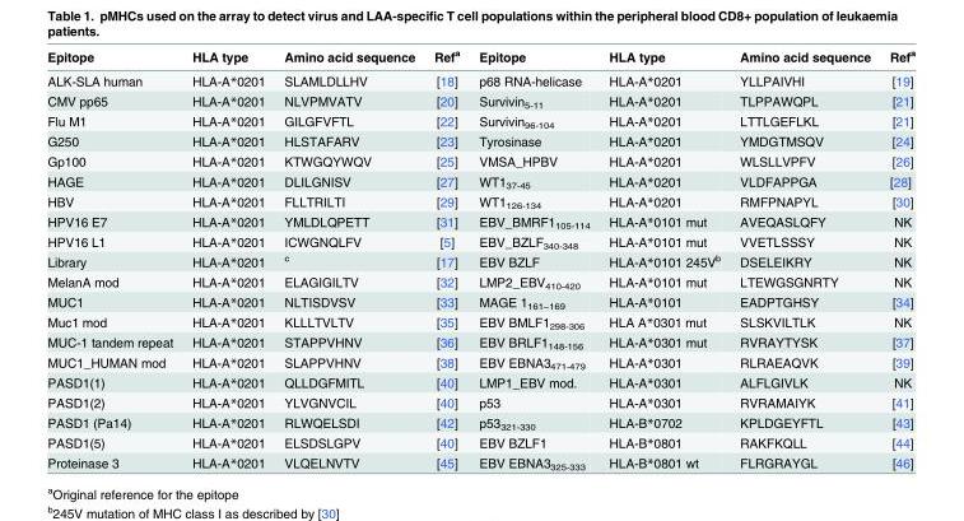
<table><thead><tr><td>Epitope</td><td>HLA type</td><td>Amino acid sequence</td><td>Ref<sup>a</sup></td><td>Epitope</td><td>HLA type</td><td>Amino acid sequence</td><td>Ref<sup>a</sup></td></tr></thead><tbody><tr><td>ALK-SLA human</td><td>HLA-A*0201</td><td>SLAMLDLLHV</td><td>[18]</td><td>p68 RNA-helicase</td><td>HLA-A*0201</td><td>YLLPAIVHI</td><td>[19]</td></tr><tr><td>CMV pp65</td><td>HLA-A*0201</td><td>NLVPMVATV</td><td>[20]</td><td>Survivin<sub>5-11</sub></td><td>HLA-A*0201</td><td>TLPPAWQPL</td><td>[21]</td></tr><tr><td>Flu M1</td><td>HLA-A*0201</td><td>GILGFVFTL</td><td>[22]</td><td>Survivin<sub>96-104</sub></td><td>HLA-A*0201</td><td>LTTLGEFLKL</td><td>[21]</td></tr><tr><td>G250</td><td>HLA-A*0201</td><td>HLSTAFARV</td><td>[23]</td><td>Tyrosinase</td><td>HLA-A*0201</td><td>YMDGTMSQV</td><td>[24]</td></tr><tr><td>Gp100</td><td>HLA-A*0201</td><td>KTWGQYWQV</td><td>[25]</td><td>VMSA_HPBV</td><td>HLA-A*0201</td><td>WLSLLVPFV</td><td>[26]</td></tr><tr><td>HAGE</td><td>HLA-A*0201</td><td>DLILGNISV</td><td>[27]</td><td>WT1<sub>37-45</sub></td><td>HLA-A*0201</td><td>VLDFAPPGA</td><td>[28]</td></tr><tr><td>HBV</td><td>HLA-A*0201</td><td>FLLTRILTI</td><td>[29]</td><td>WT1<sub>126-134</sub></td><td>HLA-A*0201</td><td>RMFPNAPYL</td><td>[30]</td></tr><tr><td>HPV16 E7</td><td>HLA-A*0201</td><td>YMLDLQPETT</td><td>[31]</td><td>EBV_BMRF1<sub>105-114</sub></td><td>HLA-A*0101 mut</td><td>AVEQASLQFY</td><td>NK</td></tr><tr><td>HPV16 L1</td><td>HLA-A*0201</td><td>ICWGNQLFV</td><td>[5]</td><td>EBV_BZLF<sub>340-348</sub></td><td>HLA-A*0101 mut</td><td>VVETLSSSY</td><td>NK</td></tr><tr><td>Library</td><td>HLA-A*0201</td><td><sup>c</sup></td><td>[17]</td><td>EBV BZLF</td><td>HLA-A*0101 245V<sup>b</sup></td><td>DSELEIKRY</td><td>NK</td></tr><tr><td>MelanA mod</td><td>HLA-A*0201</td><td>ELAGIGILTV</td><td>[32]</td><td>LMP2_EBV<sub>410-420</sub></td><td>HLA-A*0101 mut</td><td>LTEWGSGNRTY</td><td>NK</td></tr><tr><td>MUC1</td><td>HLA-A*0201</td><td>NLTISDVSV</td><td>[33]</td><td>MAGE 1<sub>161−169</sub></td><td>HLA-A*0101</td><td>EADPTGHSY</td><td>[34]</td></tr><tr><td>Muc1 mod</td><td>HLA-A*0201</td><td>KLLLTVLTV</td><td>[35]</td><td>EBV BMLF1<sub>298-306</sub></td><td>HLA A*0301 mut</td><td>SLSKVILTLK</td><td>NK</td></tr><tr><td>MUC-1 tandem repeat</td><td>HLA-A*0201</td><td>STAPPVHNV</td><td>[36]</td><td>EBV BRLF1<sub>148-156</sub></td><td>HLA-A*0301 mut</td><td>RVRAYTYSK</td><td>[37]</td></tr><tr><td>MUC1_HUMAN mod</td><td>HLA-A*0201</td><td>SLAPPVHNV</td><td>[38]</td><td>EBV EBNA3<sub>471-479</sub></td><td>HLA-A*0301</td><td>RLRAEAQVK</td><td>[39]</td></tr><tr><td>PASD1(1)</td><td>HLA-A*0201</td><td>QLLDGFMITL</td><td>[40]</td><td>LMP1_EBV mod.</td><td>HLA-A*0301</td><td>ALFLGIVLK</td><td>NK</td></tr><tr><td>PASD1(2)</td><td>HLA-A*0201</td><td>YLVGNVCIL</td><td>[40]</td><td>p53</td><td>HLA-A*0301</td><td>RVRAMAIYK</td><td>[41]</td></tr><tr><td>PASD1 (Pa14)</td><td>HLA-A*0201</td><td>RLWQELSDI</td><td>[42]</td><td>p53<sub>321-330</sub></td><td>HLA-B*0702</td><td>KPLDGEYFTL</td><td>[43]</td></tr><tr><td>PASD1(5)</td><td>HLA-A*0201</td><td>ELSDSLGPV</td><td>[40]</td><td>EBV BZLF1</td><td>HLA-B*0801</td><td>RAKFKQLL</td><td>[44]</td></tr><tr><td>Proteinase 3</td><td>HLA-A*0201</td><td>VLQELNVTV</td><td>[45]</td><td>EBV EBNA3<sub>325-333</sub></td><td>HLA-B*0801 wt</td><td>FLRGRAYGL</td><td>[46]</td></tr></tbody></table>